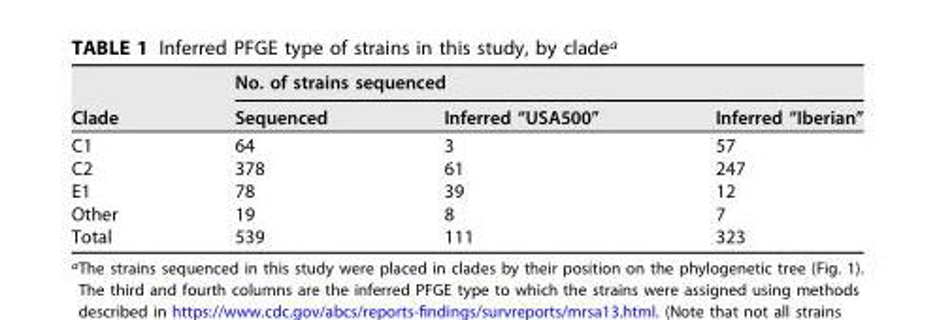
<table><thead><tr><td rowspan="2">Clade</td><td colspan="3">No. of strains sequenced</td></tr><tr><td>Sequenced</td><td>Inferred “USA500”</td><td>Inferred “Iberian”</td></tr></thead><tbody><tr><td>C1</td><td>64</td><td>3</td><td>57</td></tr><tr><td>C2</td><td>378</td><td>61</td><td>247</td></tr><tr><td>E1</td><td>78</td><td>39</td><td>12</td></tr><tr><td>Other</td><td>19</td><td>8</td><td>7</td></tr><tr><td>Total</td><td>539</td><td>111</td><td>323</td></tr></tbody></table>